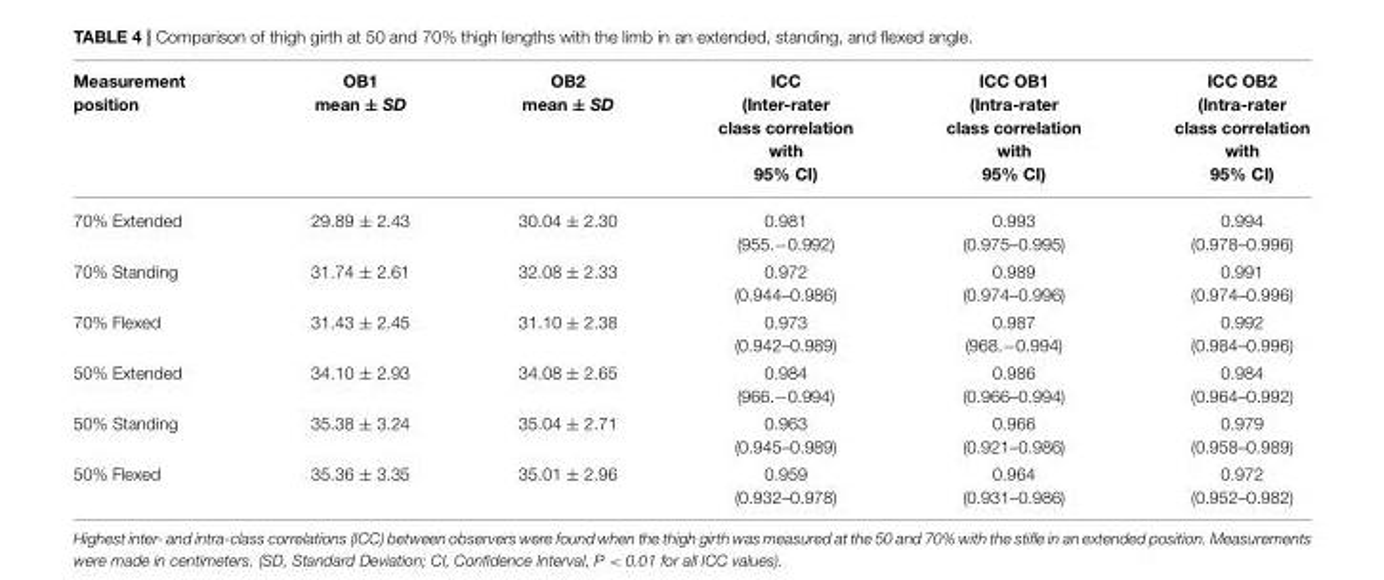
<table><thead><tr><td>Measurement position</td><td>OB1 mean ± SD</td><td>OB2 mean ± SD</td><td>ICC (Inter-rater class correlation with 95% CI)</td><td>ICC OB1 (Intra-rater class correlation with 95% CI)</td><td>ICC OB2 (Intra-rater class correlation with 95% CI)</td></tr></thead><tbody><tr><td>70% Extended</td><td>29.89 ± 2.43</td><td>30.04 ± 2.30</td><td>0.981 (955.−0.992)</td><td>0.993 (0.975–0.995)</td><td>0.994 (0.978–0.996)</td></tr><tr><td>70% Standing</td><td>31.74 ± 2.61</td><td>32.08 ± 2.33</td><td>0.972 (0.944–0.986)</td><td>0.989 (0.974–0.996)</td><td>0.991 (0.974–0.996)</td></tr><tr><td>70% Flexed</td><td>31.43 ± 2.45</td><td>31.10 ± 2.38</td><td>0.973 (0.942–0.989)</td><td>0.987 (968.−0.994)</td><td>0.992 (0.984–0.996)</td></tr><tr><td>50% Extended</td><td>34.10 ± 2.93</td><td>34.08 ± 2.65</td><td>0.984 (966.−0.994)</td><td>0.986 (0.966–0.994)</td><td>0.984 (0.964–0.992)</td></tr><tr><td>50% Standing</td><td>35.38 ± 3.24</td><td>35.04 ± 2.71</td><td>0.963 (0.945–0.989)</td><td>0.966 (0.921–0.986)</td><td>0.979 (0.958–0.989)</td></tr><tr><td>50% Flexed</td><td>35.36 ± 3.35</td><td>35.01 ± 2.96</td><td>0.959 (0.932–0.978)</td><td>0.964 (0.931–0.986)</td><td>0.972 (0.952–0.982)</td></tr></tbody></table>